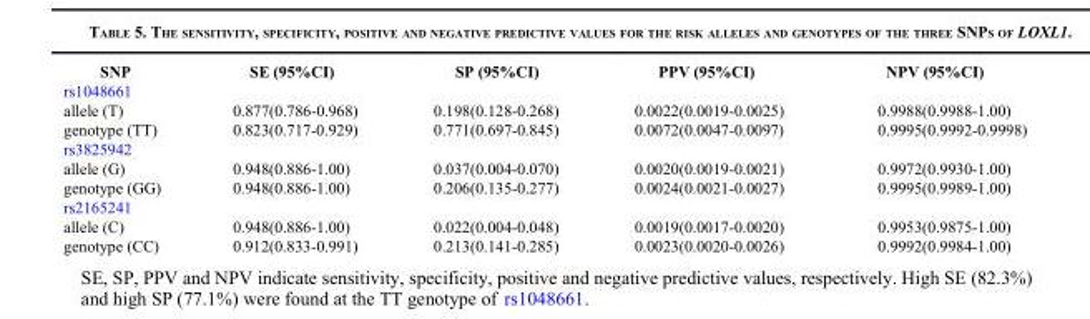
<table><thead><tr><td>SNP</td><td>SE (95%CI)</td><td>SP (95%CI)</td><td>PPV (95%CI)</td><td>NPV (95%CI)</td></tr></thead><tbody><tr><td colspan="5">rs1048661</td></tr><tr><td>allele (T)</td><td>0.877(0.786-0.968)</td><td>0.198(0.128-0.268)</td><td>0.0022(0.0019-0.0025)</td><td>0.9988(0.9988-1.00)</td></tr><tr><td>genotype (TT)</td><td>0.823(0.717-0.929)</td><td>0.771(0.697-0.845)</td><td>0.0072(0.0047-0.0097)</td><td>0.9995(0.9992-0.9998)</td></tr><tr><td colspan="5">rs3825942</td></tr><tr><td>allele (G)</td><td>0.948(0.886-1.00)</td><td>0.037(0.004-0.070)</td><td>0.0020(0.0019-0.0021)</td><td>0.9972(0.9930-1.00)</td></tr><tr><td>genotype (GG)</td><td>0.948(0.886-1.00)</td><td>0.206(0.135-0.277)</td><td>0.0024(0.0021-0.0027)</td><td>0.9995(0.9989-1.00)</td></tr><tr><td colspan="5">rs2165241</td></tr><tr><td>allele (C)</td><td>0.948(0.886-1.00)</td><td>0.022(0.004-0.048)</td><td>0.0019(0.0017-0.0020)</td><td>0.9953(0.9875-1.00)</td></tr><tr><td>genotype (CC)</td><td>0.912(0.833-0.991)</td><td>0.213(0.141-0.285)</td><td>0.0023(0.0020-0.0026)</td><td>0.9992(0.9984-1.00)</td></tr></tbody></table>